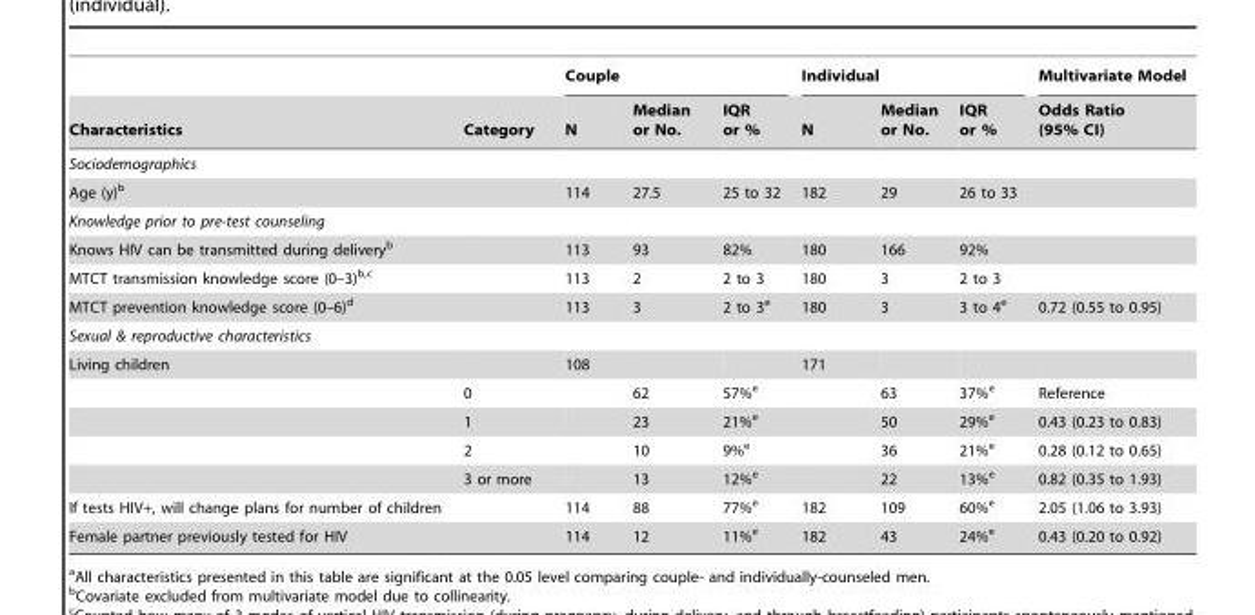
<table><thead><tr><td rowspan="2">Characteristics</td><td rowspan="2">Category</td><td colspan="3">Couple</td><td colspan="3">Individual</td><td rowspan="2">Multivariate Model Odds Ratio (95% CI)</td></tr><tr><td>N</td><td>Median or No.</td><td>IQR or %</td><td>N</td><td>Median or No.</td><td>IQR or %</td></tr></thead><tbody><tr><td colspan="9">Sociodemographics</td></tr><tr><td>Age (y)<sup>b</sup></td><td></td><td>114</td><td>27.5</td><td>25 to 32</td><td>182</td><td>29</td><td>26 to 33</td><td></td></tr><tr><td colspan="9">Knowledge prior to pre-test counseling</td></tr><tr><td>Knows HIV can be transmitted during delivery<sup>b</sup></td><td></td><td>113</td><td>93</td><td>82%</td><td>180</td><td>166</td><td>92%</td><td></td></tr><tr><td>MTCT transmission knowledge score (0–3)b,c</td><td></td><td>113</td><td>2</td><td>2 to 3</td><td>180</td><td>3</td><td>2 to 3</td><td></td></tr><tr><td>MTCT prevention knowledge score (0–6)<sup>d</sup></td><td></td><td>113</td><td>3</td><td>2 to 3<sup>e</sup></td><td>180</td><td>3</td><td>3 to 4<sup>e</sup></td><td>0.72 (0.55 to 0.95)</td></tr><tr><td colspan="9">Sexual &amp; reproductive characteristics</td></tr><tr><td rowspan="5">Living children</td><td></td><td>108</td><td></td><td></td><td>171</td><td></td><td></td><td></td></tr><tr><td>0</td><td></td><td>62</td><td>57%<sup>e</sup></td><td></td><td>63</td><td>37%<sup>e</sup></td><td>Reference</td></tr><tr><td>1</td><td></td><td>23</td><td>21%<sup>e</sup></td><td></td><td>50</td><td>29%<sup>e</sup></td><td>0.43 (0.23 to 0.83)</td></tr><tr><td>2</td><td></td><td>10</td><td>9%<sup>e</sup></td><td></td><td>36</td><td>21%<sup>e</sup></td><td>0.28 (0.12 to 0.65)</td></tr><tr><td>3 or more</td><td></td><td>13</td><td>12%<sup>e</sup></td><td></td><td>22</td><td>13%<sup>e</sup></td><td>0.82 (0.35 to 1.93)</td></tr><tr><td>If tests HIV+, will change plans for number of children</td><td></td><td>114</td><td>88</td><td>77%<sup>e</sup></td><td>182</td><td>109</td><td>60%<sup>e</sup></td><td>2.05 (1.06 to 3.93)</td></tr><tr><td>Female partner previously tested for HIV</td><td></td><td>114</td><td>12</td><td>11%<sup>e</sup></td><td>182</td><td>43</td><td>24%<sup>e</sup></td><td>0.43 (0.20 to 0.92)</td></tr></tbody></table>